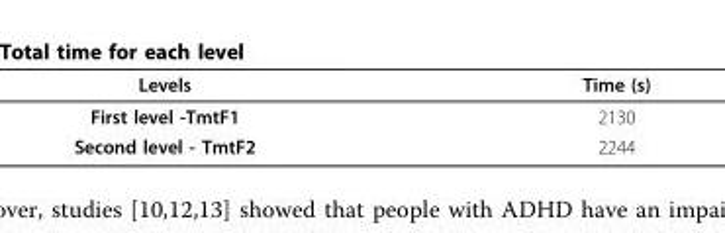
<table><thead><tr><td>Levels</td><td>Time (s)</td></tr></thead><tbody><tr><td>First level -TmtF1</td><td>2130</td></tr><tr><td>Second level - TmtF2</td><td>2244</td></tr></tbody></table>